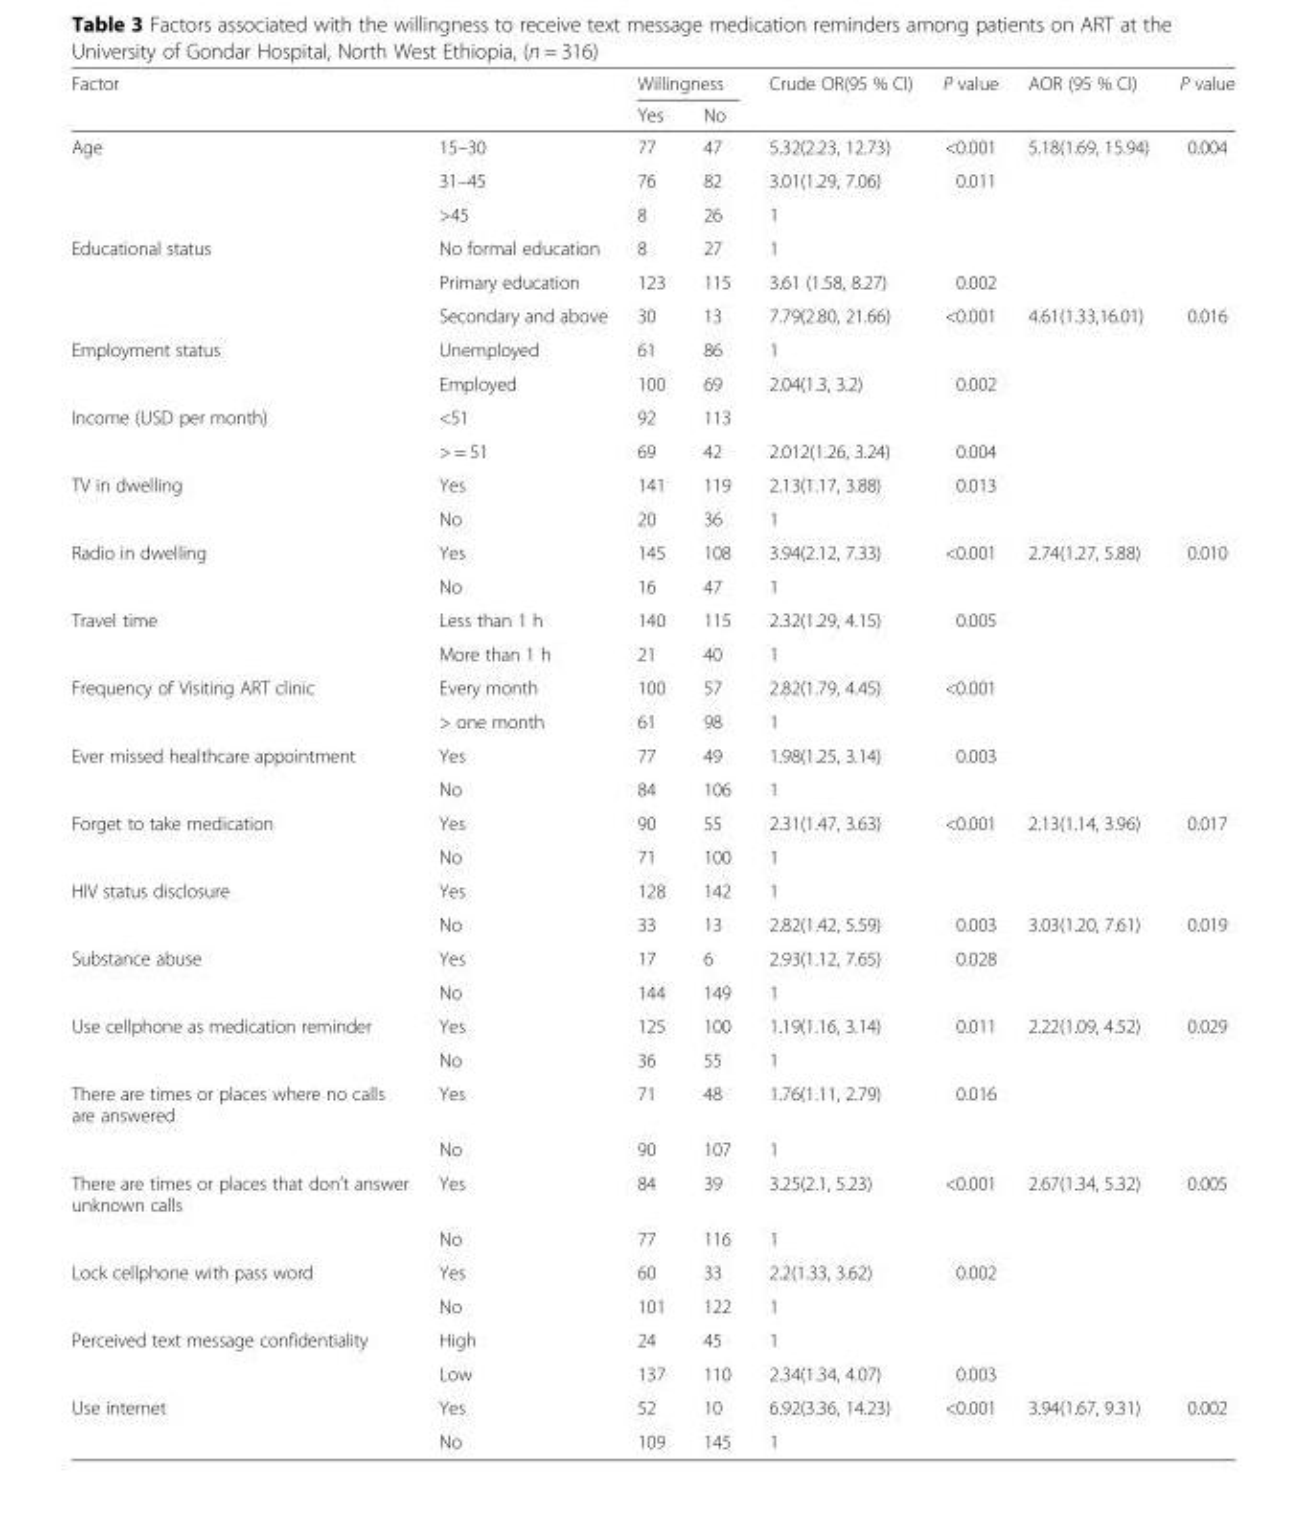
<table><thead><tr><td rowspan="2">Factor</td><td rowspan="2"></td><td colspan="2">Willingness</td><td rowspan="2">Crude OR(95 % CI)</td><td rowspan="2">P value</td><td rowspan="2">AOR (95 % CI)</td><td rowspan="2">P value</td></tr><tr><td>Yes</td><td>No</td></tr></thead><tbody><tr><td rowspan="3">Age</td><td>15–30</td><td>77</td><td>47</td><td>5.32(2.23, 12.73)</td><td>&lt;0.001</td><td>5.18(1.69, 15.94)</td><td>0.004</td></tr><tr><td>31–45</td><td>76</td><td>82</td><td>3.01(1.29, 7.06)</td><td>0.011</td><td></td><td></td></tr><tr><td>&gt;45</td><td>8</td><td>26</td><td>1</td><td></td><td></td><td></td></tr><tr><td rowspan="3">Educational status</td><td>No formal education</td><td>8</td><td>27</td><td>1</td><td></td><td></td><td></td></tr><tr><td>Primary education</td><td>123</td><td>115</td><td>3.61 (1.58, 8.27)</td><td>0.002</td><td></td><td></td></tr><tr><td>Secondary and above</td><td>30</td><td>13</td><td>7.79(2.80, 21.66)</td><td>&lt;0.001</td><td>4.61(1.33,16.01)</td><td>0.016</td></tr><tr><td rowspan="2">Employment status</td><td>Unemployed</td><td>61</td><td>86</td><td>1</td><td></td><td></td><td></td></tr><tr><td>Employed</td><td>100</td><td>69</td><td>2.04(1.3, 3.2)</td><td>0.002</td><td></td><td></td></tr><tr><td rowspan="2">Income (USD per month)</td><td>&lt;51</td><td>92</td><td>113</td><td></td><td></td><td></td><td></td></tr><tr><td>&gt; = 51</td><td>69</td><td>42</td><td>2.012(1.26, 3.24)</td><td>0.004</td><td></td><td></td></tr><tr><td rowspan="2">TV in dwelling</td><td>Yes</td><td>141</td><td>119</td><td>2.13(1.17, 3.88)</td><td>0.013</td><td></td><td></td></tr><tr><td>No</td><td>20</td><td>36</td><td>1</td><td></td><td></td><td></td></tr><tr><td rowspan="2">Radio in dwelling</td><td>Yes</td><td>145</td><td>108</td><td>3.94(2.12, 7.33)</td><td>&lt;0.001</td><td>2.74(1.27, 5.88)</td><td>0.010</td></tr><tr><td>No</td><td>16</td><td>47</td><td>1</td><td></td><td></td><td></td></tr><tr><td rowspan="2">Travel time</td><td>Less than 1 h</td><td>140</td><td>115</td><td>2.32(1.29, 4.15)</td><td>0.005</td><td></td><td></td></tr><tr><td>More than 1 h</td><td>21</td><td>40</td><td>1</td><td></td><td></td><td></td></tr><tr><td rowspan="2">Frequency of Visiting ART clinic</td><td>Every month</td><td>100</td><td>57</td><td>2.82(1.79, 4.45)</td><td>&lt;0.001</td><td></td><td></td></tr><tr><td>&gt; one month</td><td>61</td><td>98</td><td>1</td><td></td><td></td><td></td></tr><tr><td rowspan="2">Ever missed healthcare appointment</td><td>Yes</td><td>77</td><td>49</td><td>1.98(1.25, 3.14)</td><td>0.003</td><td></td><td></td></tr><tr><td>No</td><td>84</td><td>106</td><td>1</td><td></td><td></td><td></td></tr><tr><td rowspan="2">Forget to take medication</td><td>Yes</td><td>90</td><td>55</td><td>2.31(1.47, 3.63)</td><td>&lt;0.001</td><td>2.13(1.14, 3.96)</td><td>0.017</td></tr><tr><td>No</td><td>71</td><td>100</td><td>1</td><td></td><td></td><td></td></tr><tr><td rowspan="2">HIV status disclosure</td><td>Yes</td><td>128</td><td>142</td><td>1</td><td></td><td></td><td></td></tr><tr><td>No</td><td>33</td><td>13</td><td>2.82(1.42, 5.59)</td><td>0.003</td><td>3.03(1.20, 7.61)</td><td>0.019</td></tr><tr><td rowspan="2">Substance abuse</td><td>Yes</td><td>17</td><td>6</td><td>2.93(1.12, 7.65)</td><td>0.028</td><td></td><td></td></tr><tr><td>No</td><td>144</td><td>149</td><td>1</td><td></td><td></td><td></td></tr><tr><td rowspan="2">Use cellphone as medication reminder</td><td>Yes</td><td>125</td><td>100</td><td>1.19(1.16, 3.14)</td><td>0.011</td><td>2.22(1.09, 4.52)</td><td>0.029</td></tr><tr><td>No</td><td>36</td><td>55</td><td>1</td><td></td><td></td><td></td></tr><tr><td rowspan="2">There are times or places where no calls are answered</td><td>Yes</td><td>71</td><td>48</td><td>1.76(1.11, 2.79)</td><td>0.016</td><td></td><td></td></tr><tr><td>No</td><td>90</td><td>107</td><td>1</td><td></td><td></td><td></td></tr><tr><td rowspan="2">There are times or places that don’t answer unknown calls</td><td>Yes</td><td>84</td><td>39</td><td>3.25(2.1, 5.23)</td><td>&lt;0.001</td><td>2.67(1.34, 5.32)</td><td>0.005</td></tr><tr><td>No</td><td>77</td><td>116</td><td>1</td><td></td><td></td><td></td></tr><tr><td rowspan="2">Lock cellphone with pass word</td><td>Yes</td><td>60</td><td>33</td><td>2.2(1.33, 3.62)</td><td>0.002</td><td></td><td></td></tr><tr><td>No</td><td>101</td><td>122</td><td>1</td><td></td><td></td><td></td></tr><tr><td rowspan="2">Perceived text message confidentiality</td><td>High</td><td>24</td><td>45</td><td>1</td><td></td><td></td><td></td></tr><tr><td>Low</td><td>137</td><td>110</td><td>2.34(1.34, 4.07)</td><td>0.003</td><td></td><td></td></tr><tr><td rowspan="2">Use internet</td><td>Yes</td><td>52</td><td>10</td><td>6.92(3.36, 14.23)</td><td>&lt;0.001</td><td>3.94(1.67, 9.31)</td><td>0.002</td></tr><tr><td>No</td><td>109</td><td>145</td><td>1</td><td></td><td></td><td></td></tr></tbody></table>